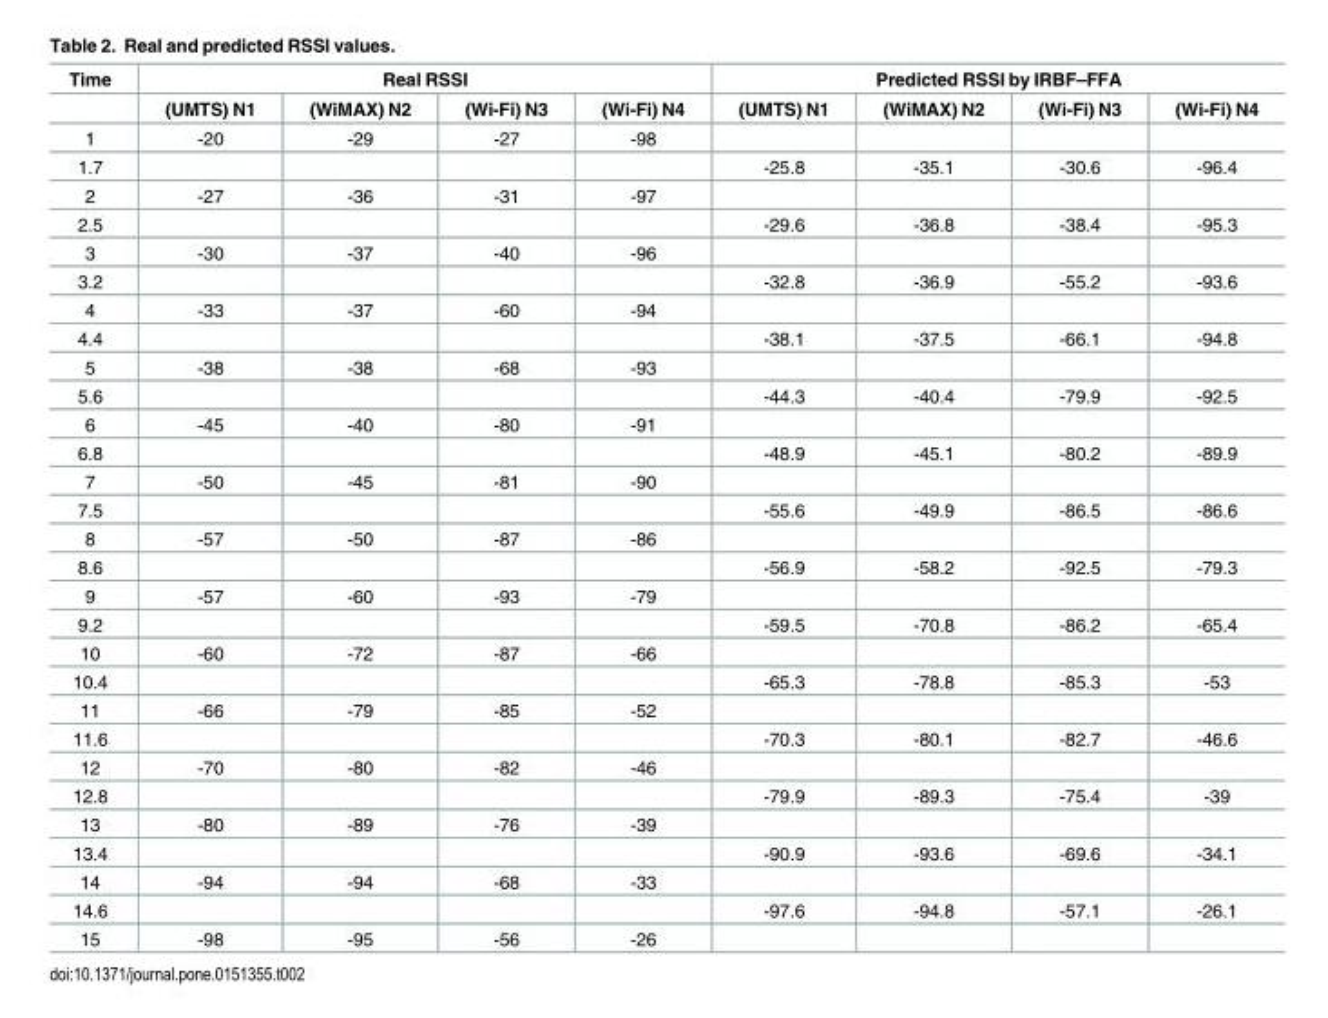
<table><thead><tr><td rowspan="2">Time</td><td colspan="4">Real RSSI</td><td colspan="4">Predicted RSSI by IRBF–FFA</td></tr><tr><td>(UMTS) N1</td><td>(WiMAX) N2</td><td>(Wi-Fi) N3</td><td>(Wi-Fi) N4</td><td>(UMTS) N1</td><td>(WiMAX) N2</td><td>(Wi-Fi) N3</td><td>(Wi-Fi) N4</td></tr></thead><tbody><tr><td>1</td><td>-20</td><td>-29</td><td>-27</td><td>-98</td><td></td><td></td><td></td><td></td></tr><tr><td>1.7</td><td></td><td></td><td></td><td></td><td>-25.8</td><td>-35.1</td><td>-30.6</td><td>-96.4</td></tr><tr><td>2</td><td>-27</td><td>-36</td><td>-31</td><td>-97</td><td></td><td></td><td></td><td></td></tr><tr><td>2.5</td><td></td><td></td><td></td><td></td><td>-29.6</td><td>-36.8</td><td>-38.4</td><td>-95.3</td></tr><tr><td>3</td><td>-30</td><td>-37</td><td>-40</td><td>-96</td><td></td><td></td><td></td><td></td></tr><tr><td>3.2</td><td></td><td></td><td></td><td></td><td>-32.8</td><td>-36.9</td><td>-55.2</td><td>-93.6</td></tr><tr><td>4</td><td>-33</td><td>-37</td><td>-60</td><td>-94</td><td></td><td></td><td></td><td></td></tr><tr><td>4.4</td><td></td><td></td><td></td><td></td><td>-38.1</td><td>-37.5</td><td>-66.1</td><td>-94.8</td></tr><tr><td>5</td><td>-38</td><td>-38</td><td>-68</td><td>-93</td><td></td><td></td><td></td><td></td></tr><tr><td>5.6</td><td></td><td></td><td></td><td></td><td>-44.3</td><td>-40.4</td><td>-79.9</td><td>-92.5</td></tr><tr><td>6</td><td>-45</td><td>-40</td><td>-80</td><td>-91</td><td></td><td></td><td></td><td></td></tr><tr><td>6.8</td><td></td><td></td><td></td><td></td><td>-48.9</td><td>-45.1</td><td>-80.2</td><td>-89.9</td></tr><tr><td>7</td><td>-50</td><td>-45</td><td>-81</td><td>-90</td><td></td><td></td><td></td><td></td></tr><tr><td>7.5</td><td></td><td></td><td></td><td></td><td>-55.6</td><td>-49.9</td><td>-86.5</td><td>-86.6</td></tr><tr><td>8</td><td>-57</td><td>-50</td><td>-87</td><td>-86</td><td></td><td></td><td></td><td></td></tr><tr><td>8.6</td><td></td><td></td><td></td><td></td><td>-56.9</td><td>-58.2</td><td>-92.5</td><td>-79.3</td></tr><tr><td>9</td><td>-57</td><td>-60</td><td>-93</td><td>-79</td><td></td><td></td><td></td><td></td></tr><tr><td>9.2</td><td></td><td></td><td></td><td></td><td>-59.5</td><td>-70.8</td><td>-86.2</td><td>-65.4</td></tr><tr><td>10</td><td>-60</td><td>-72</td><td>-87</td><td>-66</td><td></td><td></td><td></td><td></td></tr><tr><td>10.4</td><td></td><td></td><td></td><td></td><td>-65.3</td><td>-78.8</td><td>-85.3</td><td>-53</td></tr><tr><td>11</td><td>-66</td><td>-79</td><td>-85</td><td>-52</td><td></td><td></td><td></td><td></td></tr><tr><td>11.6</td><td></td><td></td><td></td><td></td><td>-70.3</td><td>-80.1</td><td>-82.7</td><td>-46.6</td></tr><tr><td>12</td><td>-70</td><td>-80</td><td>-82</td><td>-46</td><td></td><td></td><td></td><td></td></tr><tr><td>12.8</td><td></td><td></td><td></td><td></td><td>-79.9</td><td>-89.3</td><td>-75.4</td><td>-39</td></tr><tr><td>13</td><td>-80</td><td>-89</td><td>-76</td><td>-39</td><td></td><td></td><td></td><td></td></tr><tr><td>13.4</td><td></td><td></td><td></td><td></td><td>-90.9</td><td>-93.6</td><td>-69.6</td><td>-34.1</td></tr><tr><td>14</td><td>-94</td><td>-94</td><td>-68</td><td>-33</td><td></td><td></td><td></td><td></td></tr><tr><td>14.6</td><td></td><td></td><td></td><td></td><td>-97.6</td><td>-94.8</td><td>-57.1</td><td>-26.1</td></tr><tr><td>15</td><td>-98</td><td>-95</td><td>-56</td><td>-26</td><td></td><td></td><td></td><td></td></tr></tbody></table>